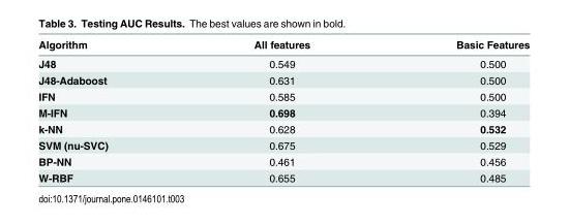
<table><thead><tr><td>Algorithm</td><td>All features</td><td>Basic Features</td></tr></thead><tbody><tr><td>J48</td><td>0.549</td><td>0.500</td></tr><tr><td>J48-Adaboost</td><td>0.631</td><td>0.500</td></tr><tr><td>IFN</td><td>0.585</td><td>0.500</td></tr><tr><td>M-IFN</td><td>0.698</td><td>0.394</td></tr><tr><td>k-NN</td><td>0.628</td><td>0.532</td></tr><tr><td>SVM (nu-SVC)</td><td>0.675</td><td>0.529</td></tr><tr><td>BP-NN</td><td>0.461</td><td>0.456</td></tr><tr><td>W-RBF</td><td>0.655</td><td>0.485</td></tr></tbody></table>